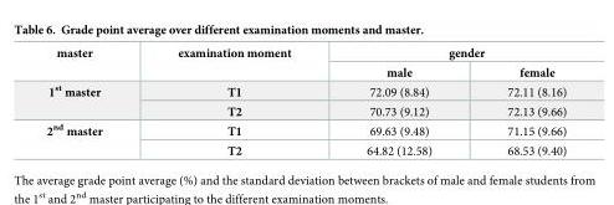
<table><thead><tr><td rowspan="2">master</td><td rowspan="2">examination moment</td><td colspan="2">gender</td></tr><tr><td>male</td><td>female</td></tr></thead><tbody><tr><td rowspan="2">1<sup>st</sup> master</td><td>T1</td><td>72.09 (8.84)</td><td>72.11 (8.16)</td></tr><tr><td>T2</td><td>70.73 (9.12)</td><td>72.13 (9.66)</td></tr><tr><td rowspan="2">2<sup>nd</sup> master</td><td>T1</td><td>69.63 (9.48)</td><td>71.15 (9.66)</td></tr><tr><td>T2</td><td>64.82 (12.58)</td><td>68.53 (9.40)</td></tr></tbody></table>